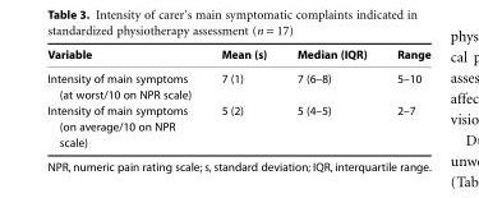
<table><thead><tr><td>Variable</td><td>Mean (s)</td><td>Median (IQR)</td><td>Range</td></tr></thead><tbody><tr><td>Intensity of main symptoms (at worst/10 on NPR scale)</td><td>7 (1)</td><td>7 (6–8)</td><td>5–10</td></tr><tr><td>Intensity of main symptoms (on average/10 on NPR scale)</td><td>5 (2)</td><td>5 (4–5)</td><td>2–7</td></tr></tbody></table>